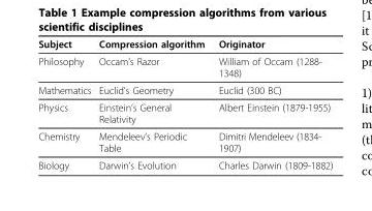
<table><thead><tr><td>Subject</td><td>Compression algorithm</td><td>Originator</td></tr></thead><tbody><tr><td>Philosophy</td><td>Occam’s Razor</td><td>William of Occam (1288- 1348)</td></tr><tr><td>Mathematics</td><td>Euclid’s Geometry</td><td>Euclid (300 BC)</td></tr><tr><td>Physics</td><td>Einstein’s General Relativity</td><td>Albert Einstein (1879-1955)</td></tr><tr><td>Chemistry</td><td>Mendeleev’s Periodic Table</td><td>Dimitri Mendeleev (1834- 1907)</td></tr><tr><td>Biology</td><td>Darwin’s Evolution</td><td>Charles Darwin (1809-1882)</td></tr></tbody></table>